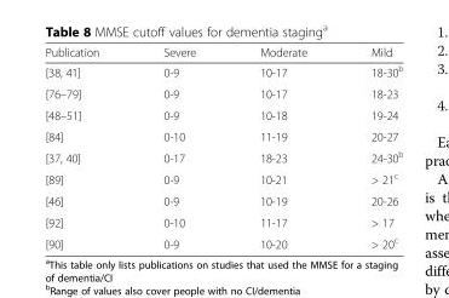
<table><thead><tr><td>Publication</td><td>Severe</td><td>Moderate</td><td>Mild</td></tr></thead><tbody><tr><td>[38, 41]</td><td>0-9</td><td>10-17</td><td>18-30<sup>b</sup></td></tr><tr><td>[76–79]</td><td>0-9</td><td>10-17</td><td>18-23</td></tr><tr><td>[48–51]</td><td>0-9</td><td>10-18</td><td>19-24</td></tr><tr><td>[84]</td><td>0-10</td><td>11-19</td><td>20-27</td></tr><tr><td>[37, 40]</td><td>0-17</td><td>18-23</td><td>24-30<sup>b</sup></td></tr><tr><td>[89]</td><td>0-9</td><td>10-21</td><td>&gt; 21<sup>c</sup></td></tr><tr><td>[46]</td><td>0-9</td><td>10-19</td><td>20-26</td></tr><tr><td>[92]</td><td>0-10</td><td>11-17</td><td>&gt; 17</td></tr><tr><td>[90]</td><td>0-9</td><td>10-20</td><td>&gt; 20<sup>c</sup></td></tr></tbody></table>